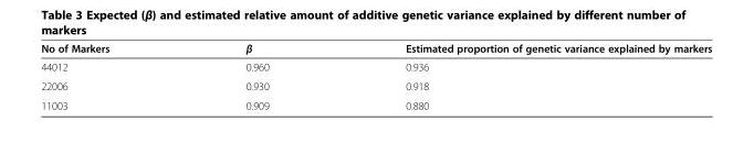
<table><thead><tr><td>No of Markers</td><td>β</td><td>Estimated proportion of genetic variance explained by markers</td></tr></thead><tbody><tr><td>44012</td><td>0.960</td><td>0.936</td></tr><tr><td>22006</td><td>0.930</td><td>0.918</td></tr><tr><td>11003</td><td>0.909</td><td>0.880</td></tr></tbody></table>